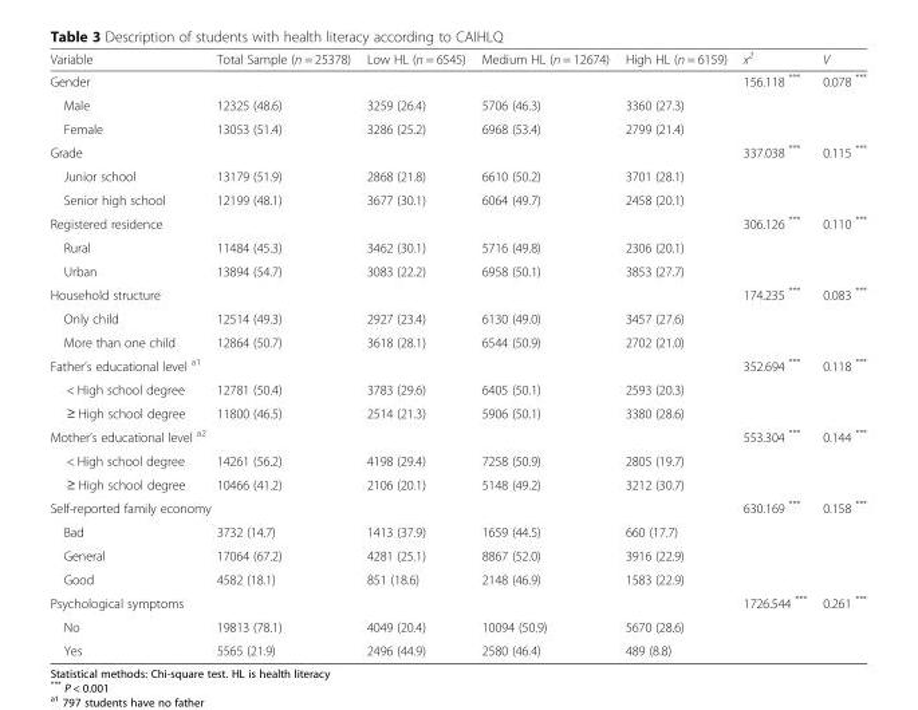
<table><thead><tr><td>Variable</td><td>Total Sample (n = 25378)</td><td>Low HL (n = 6545)</td><td>Medium HL (n = 12674)</td><td>High HL (n = 6159)</td><td>x<sup>2</sup></td><td>V</td></tr></thead><tbody><tr><td>Gender</td><td></td><td></td><td></td><td></td><td>156.118 ***</td><td>0.078 ***</td></tr><tr><td>Male</td><td>12325 (48.6)</td><td>3259 (26.4)</td><td>5706 (46.3)</td><td>3360 (27.3)</td><td></td><td></td></tr><tr><td>Female</td><td>13053 (51.4)</td><td>3286 (25.2)</td><td>6968 (53.4)</td><td>2799 (21.4)</td><td></td><td></td></tr><tr><td>Grade</td><td></td><td></td><td></td><td></td><td>337.038 ***</td><td>0.115 ***</td></tr><tr><td>Junior school</td><td>13179 (51.9)</td><td>2868 (21.8)</td><td>6610 (50.2)</td><td>3701 (28.1)</td><td></td><td></td></tr><tr><td>Senior high school</td><td>12199 (48.1)</td><td>3677 (30.1)</td><td>6064 (49.7)</td><td>2458 (20.1)</td><td></td><td></td></tr><tr><td>Registered residence</td><td></td><td></td><td></td><td></td><td>306.126 ***</td><td>0.110 ***</td></tr><tr><td>Rural</td><td>11484 (45.3)</td><td>3462 (30.1)</td><td>5716 (49.8)</td><td>2306 (20.1)</td><td></td><td></td></tr><tr><td>Urban</td><td>13894 (54.7)</td><td>3083 (22.2)</td><td>6958 (50.1)</td><td>3853 (27.7)</td><td></td><td></td></tr><tr><td>Household structure</td><td></td><td></td><td></td><td></td><td>174.235 ***</td><td>0.083 ***</td></tr><tr><td>Only child</td><td>12514 (49.3)</td><td>2927 (23.4)</td><td>6130 (49.0)</td><td>3457 (27.6)</td><td></td><td></td></tr><tr><td>More than one child</td><td>12864 (50.7)</td><td>3618 (28.1)</td><td>6544 (50.9)</td><td>2702 (21.0)</td><td></td><td></td></tr><tr><td>Father’s educational level <sup>a1</sup></td><td></td><td></td><td></td><td></td><td>352.694 ***</td><td>0.118 ***</td></tr><tr><td>&lt; High school degree</td><td>12781 (50.4)</td><td>3783 (29.6)</td><td>6405 (50.1)</td><td>2593 (20.3)</td><td></td><td></td></tr><tr><td>≥ High school degree</td><td>11800 (46.5)</td><td>2514 (21.3)</td><td>5906 (50.1)</td><td>3380 (28.6)</td><td></td><td></td></tr><tr><td colspan="2">Mother’s educational level <sup>a2</sup></td><td></td><td></td><td></td><td>553.304 ***</td><td>0.144 ***</td></tr><tr><td>&lt; High school degree</td><td>14261 (56.2)</td><td>4198 (29.4)</td><td>7258 (50.9)</td><td>2805 (19.7)</td><td></td><td></td></tr><tr><td>≥ High school degree</td><td>10466 (41.2)</td><td>2106 (20.1)</td><td>5148 (49.2)</td><td>3212 (30.7)</td><td></td><td></td></tr><tr><td colspan="2">Self-reported family economy</td><td></td><td></td><td></td><td>630.169 ***</td><td>0.158 ***</td></tr><tr><td>Bad</td><td>3732 (14.7)</td><td>1413 (37.9)</td><td>1659 (44.5)</td><td>660 (17.7)</td><td></td><td></td></tr><tr><td>General</td><td>17064 (67.2)</td><td>4281 (25.1)</td><td>8867 (52.0)</td><td>3916 (22.9)</td><td></td><td></td></tr><tr><td>Good</td><td>4582 (18.1)</td><td>851 (18.6)</td><td>2148 (46.9)</td><td>1583 (22.9)</td><td></td><td></td></tr><tr><td>Psychological symptoms</td><td></td><td></td><td></td><td></td><td>1726.544 ***</td><td>0.261 ***</td></tr><tr><td>No</td><td>19813 (78.1)</td><td>4049 (20.4)</td><td>10094 (50.9)</td><td>5670 (28.6)</td><td></td><td></td></tr><tr><td>Yes</td><td>5565 (21.9)</td><td>2496 (44.9)</td><td>2580 (46.4)</td><td>489 (8.8)</td><td></td><td></td></tr></tbody></table>